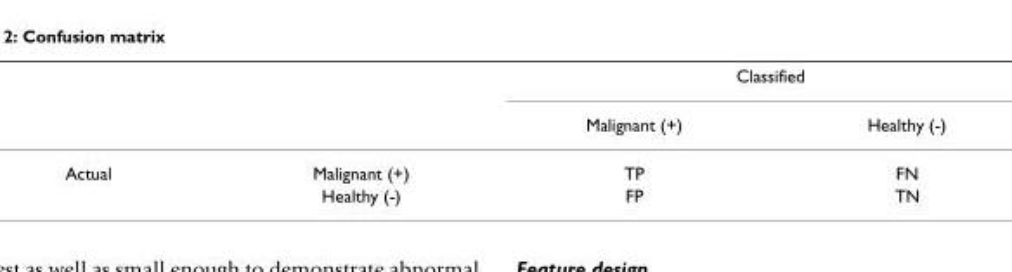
<table><thead><tr><td rowspan="2"></td><td rowspan="2"></td><td colspan="2">Classified</td></tr><tr><td>Malignant (+)</td><td>Healthy (-)</td></tr></thead><tbody><tr><td rowspan="2">Actual</td><td>Malignant (+)</td><td>TP</td><td>FN</td></tr><tr><td>Healthy (-)</td><td>FP</td><td>TN</td></tr></tbody></table>